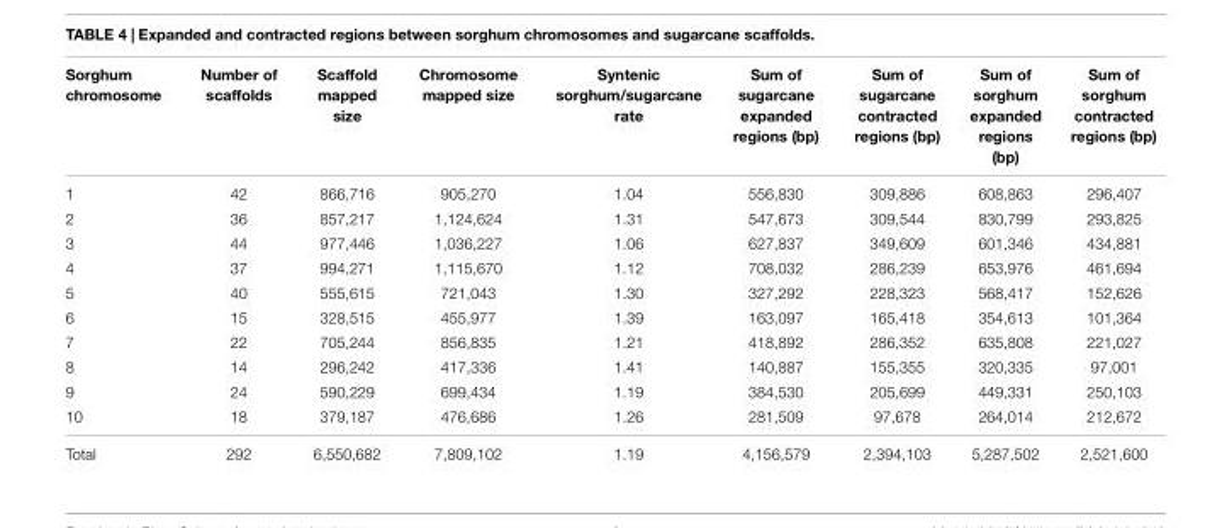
<table><thead><tr><td>Sorghum chromosome</td><td>Number of scaffolds</td><td>Scaffold mapped size</td><td>Chromosome mapped size</td><td>Syntenic sorghum/sugarcane rate</td><td>Sum of sugarcane expanded regions (bp)</td><td>Sum of sugarcane contracted regions (bp)</td><td>Sum of sorghum expanded regions (bp)</td><td>Sum of sorghum contracted regions (bp)</td></tr></thead><tbody><tr><td>1</td><td>42</td><td>866,716</td><td>905,270</td><td>1.04</td><td>556,830</td><td>309,886</td><td>608,863</td><td>296,407</td></tr><tr><td>2</td><td>36</td><td>857,217</td><td>1,124,624</td><td>1.31</td><td>547,673</td><td>309,544</td><td>830,799</td><td>293,825</td></tr><tr><td>3</td><td>44</td><td>977,446</td><td>1,036,227</td><td>1.06</td><td>627,837</td><td>349,609</td><td>601,346</td><td>434,881</td></tr><tr><td>4</td><td>37</td><td>994,271</td><td>1,115,670</td><td>1.12</td><td>708,032</td><td>286,239</td><td>653,976</td><td>461,694</td></tr><tr><td>5</td><td>40</td><td>555,615</td><td>721,043</td><td>1.30</td><td>327,292</td><td>228,323</td><td>568,417</td><td>152,626</td></tr><tr><td>6</td><td>15</td><td>328,515</td><td>455,977</td><td>1.39</td><td>163,097</td><td>165,418</td><td>354,613</td><td>101,364</td></tr><tr><td>7</td><td>22</td><td>705,244</td><td>856,835</td><td>1.21</td><td>418,892</td><td>286,352</td><td>635,808</td><td>221,027</td></tr><tr><td>8</td><td>14</td><td>296,242</td><td>417,336</td><td>1.41</td><td>140,887</td><td>155,355</td><td>320,335</td><td>97,001</td></tr><tr><td>9</td><td>24</td><td>590,229</td><td>699,434</td><td>1.19</td><td>384,530</td><td>205,699</td><td>449,331</td><td>250,103</td></tr><tr><td>10</td><td>18</td><td>379,187</td><td>476,686</td><td>1.26</td><td>281,509</td><td>97,678</td><td>264,014</td><td>212,672</td></tr><tr><td>Total</td><td>292</td><td>6,550,682</td><td>7,809,102</td><td>1.19</td><td>4,156,579</td><td>2,394,103</td><td>5,287,502</td><td>2,521,600</td></tr></tbody></table>